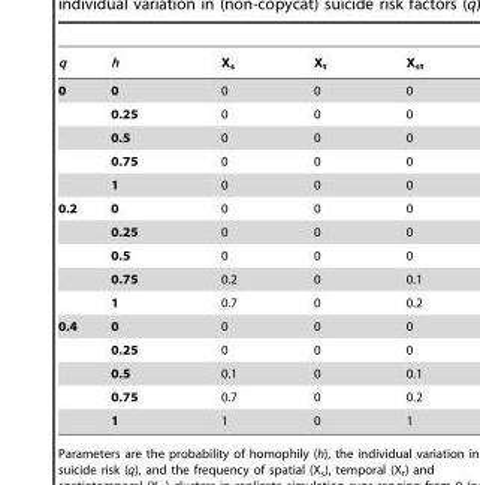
<table><thead><tr><td>q</td><td>h</td><td>X<sub>s</sub></td><td>X<sub>t</sub></td><td>X<sub>st</sub></td></tr></thead><tbody><tr><td rowspan="5">0</td><td>0</td><td>0</td><td>0</td><td>0</td></tr><tr><td>0.25</td><td>0</td><td>0</td><td>0</td></tr><tr><td>0.5</td><td>0</td><td>0</td><td>0</td></tr><tr><td>0.75</td><td>0</td><td>0</td><td>0</td></tr><tr><td>1</td><td>0</td><td>0</td><td>0</td></tr><tr><td rowspan="5">0.2</td><td>0</td><td>0</td><td>0</td><td>0</td></tr><tr><td>0.25</td><td>0</td><td>0</td><td>0</td></tr><tr><td>0.5</td><td>0</td><td>0</td><td>0</td></tr><tr><td>0.75</td><td>0.2</td><td>0</td><td>0.1</td></tr><tr><td>1</td><td>0.7</td><td>0</td><td>0.2</td></tr><tr><td rowspan="5">0.4</td><td>0</td><td>0</td><td>0</td><td>0</td></tr><tr><td>0.25</td><td>0</td><td>0</td><td>0</td></tr><tr><td>0.5</td><td>0.1</td><td>0</td><td>0.1</td></tr><tr><td>0.75</td><td>0.7</td><td>0</td><td>0.2</td></tr><tr><td>1</td><td>1</td><td>0</td><td>1</td></tr></tbody></table>